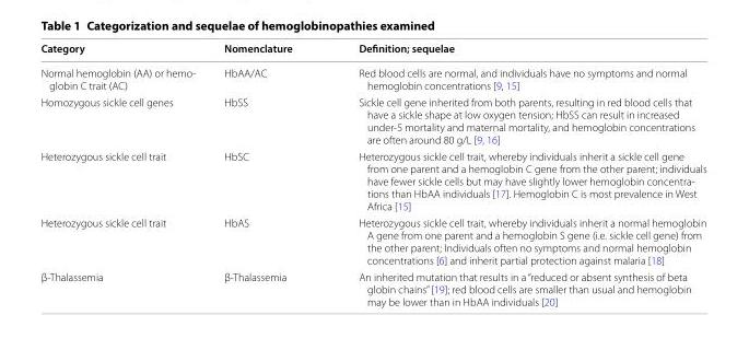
<table><thead><tr><td>Category</td><td>Nomenclature</td><td>Definition; sequelae</td></tr></thead><tbody><tr><td>Normal hemoglobin (AA) or hemo- globin C trait (AC)</td><td>HbAA/AC</td><td>Red blood cells are normal, and individuals have no symptoms and normal hemoglobin concentrations [9, 15]</td></tr><tr><td>Homozygous sickle cell genes</td><td>HbSS</td><td>Sickle cell gene inherited from both parents, resulting in red blood cells that have a sickle shape at low oxygen tension; HbSS can result in increased under-5 mortality and maternal mortality, and hemoglobin concentrations are often around 80 g/L [9, 16]</td></tr><tr><td>Heterozygous sickle cell trait</td><td>HbSC</td><td>Heterozygous sickle cell trait, whereby individuals inherit a sickle cell gene from one parent and a hemoglobin C gene from the other parent; individuals have fewer sickle cells but may have slightly lower hemoglobin concentra- tions than HbAA individuals [17]. Hemoglobin C is most prevalence in West Africa [15]</td></tr><tr><td>Heterozygous sickle cell trait</td><td>HbAS</td><td>Heterozygous sickle cell trait, whereby individuals inherit a normal hemoglobin A gene from one parent and a hemoglobin S gene (i.e. sickle cell gene) from the other parent; Individuals often no symptoms and normal hemoglobin concentrations [6] and inherit partial protection against malaria [18]</td></tr><tr><td>β-Thalassemia</td><td>β-Thalassemia</td><td>An inherited mutation that results in a “reduced or absent synthesis of beta globin chains” [19]; red blood cells are smaller than usual and hemoglobin may be lower than in HbAA individuals [20]</td></tr></tbody></table>